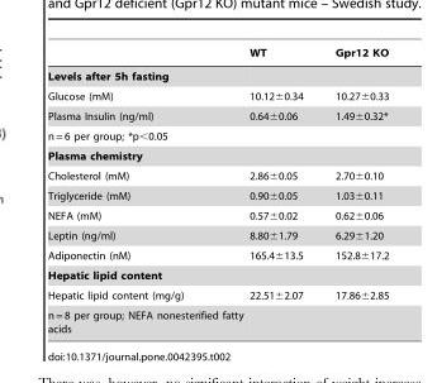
<table><thead><tr><td></td><td>WT</td><td>Gpr12 KO</td></tr></thead><tbody><tr><td colspan="3">Levels after 5h fasting</td></tr><tr><td>Glucose (mM)</td><td>10.12±0.34</td><td>10.27±0.33</td></tr><tr><td>Plasma Insulin (ng/ml)</td><td>0.64±0.06</td><td>1.49±0.32*</td></tr><tr><td colspan="3">n = 6 per group; *p&lt;0.05</td></tr><tr><td colspan="3">Plasma chemistry</td></tr><tr><td>Cholesterol (mM)</td><td>2.86±0.05</td><td>2.70±0.10</td></tr><tr><td>Triglyceride (mM)</td><td>0.90±0.05</td><td>1.03±0.11</td></tr><tr><td>NEFA (mM)</td><td>0.57±0.02</td><td>0.62±0.06</td></tr><tr><td>Leptin (ng/ml)</td><td>8.80±1.79</td><td>6.29±1.20</td></tr><tr><td>Adiponectin (nM)</td><td>165.4±13.5</td><td>152.8±17.2</td></tr><tr><td colspan="3">Hepatic lipid content</td></tr><tr><td>Hepatic lipid content (mg/g)</td><td>22.51±2.07</td><td>17.86±2.85</td></tr><tr><td>n = 8 per group; NEFA nonesterified fatty acids</td><td></td><td></td></tr></tbody></table>